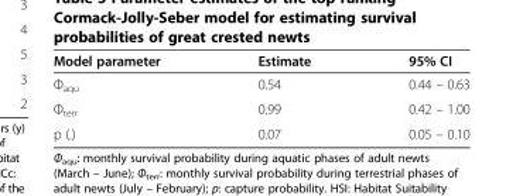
<table><thead><tr><td>Model parameter</td><td>Estimate</td><td>95% CI</td></tr></thead><tbody><tr><td>Φ<sub>aqu</sub></td><td>0.54</td><td>0.44 – 0.63</td></tr><tr><td>Φ<sub>terr</sub></td><td>0.99</td><td>0.42 – 1.00</td></tr><tr><td>p (.)</td><td>0.07</td><td>0.05 – 0.10</td></tr></tbody></table>